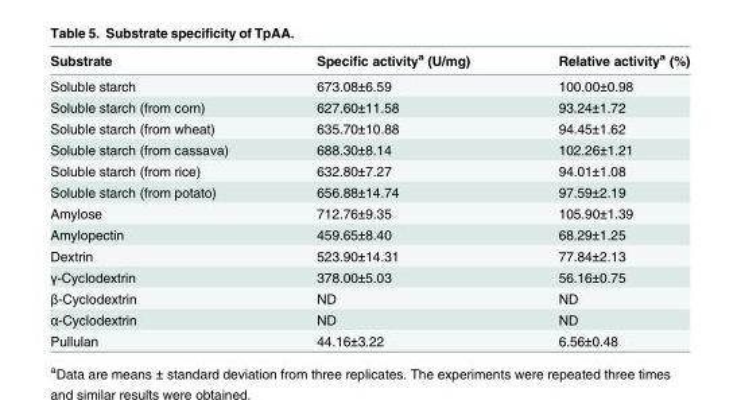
<table><thead><tr><td>Substrate</td><td>Specific activity<sup>a</sup> (U/mg)</td><td>Relative activity<sup>a</sup> (%)</td></tr></thead><tbody><tr><td>Soluble starch</td><td>673.08±6.59</td><td>100.00±0.98</td></tr><tr><td>Soluble starch (from corn)</td><td>627.60±11.58</td><td>93.24±1.72</td></tr><tr><td>Soluble starch (from wheat)</td><td>635.70±10.88</td><td>94.45±1.62</td></tr><tr><td>Soluble starch (from cassava)</td><td>688.30±8.14</td><td>102.26±1.21</td></tr><tr><td>Soluble starch (from rice)</td><td>632.80±7.27</td><td>94.01±1.08</td></tr><tr><td>Soluble starch (from potato)</td><td>656.88±14.74</td><td>97.59±2.19</td></tr><tr><td>Amylose</td><td>712.76±9.35</td><td>105.90±1.39</td></tr><tr><td>Amylopectin</td><td>459.65±8.40</td><td>68.29±1.25</td></tr><tr><td>Dextrin</td><td>523.90±14.31</td><td>77.84±2.13</td></tr><tr><td>γ-Cyclodextrin</td><td>378.00±5.03</td><td>56.16±0.75</td></tr><tr><td>β-Cyclodextrin</td><td>ND</td><td>ND</td></tr><tr><td>α-Cyclodextrin</td><td>ND</td><td>ND</td></tr><tr><td>Pullulan</td><td>44.16±3.22</td><td>6.56±0.48</td></tr></tbody></table>